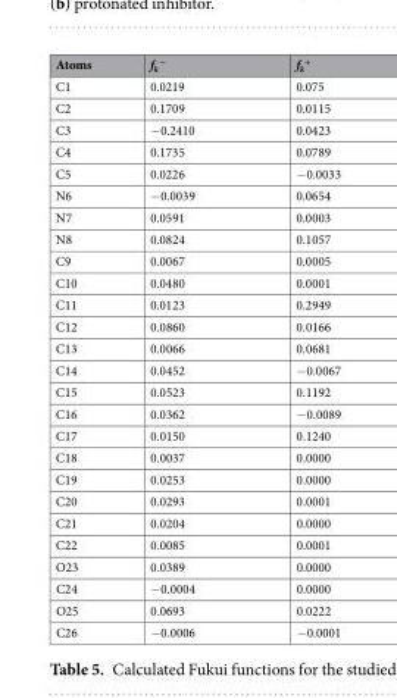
<table><thead><tr><td>Atoms</td><td>f<sub>k</sub> <sup>−</sup></td><td>f<sub>k</sub> <sup>+</sup></td></tr></thead><tbody><tr><td>C1</td><td>0.0219</td><td>0.075</td></tr><tr><td>C2</td><td>0.1709</td><td>0.0115</td></tr><tr><td>C3</td><td>−0.2410</td><td>0.0423</td></tr><tr><td>C4</td><td>0.1735</td><td>0.0789</td></tr><tr><td>C5</td><td>0.0226</td><td>−0.0033</td></tr><tr><td>N6</td><td>−0.0039</td><td>0.0654</td></tr><tr><td>N7</td><td>0.0591</td><td>0.0003</td></tr><tr><td>N8</td><td>0.0824</td><td>0.1057</td></tr><tr><td>C9</td><td>0.0067</td><td>0.0005</td></tr><tr><td>C10</td><td>0.0480</td><td>0.0001</td></tr><tr><td>C11</td><td>0.0123</td><td>0.2949</td></tr><tr><td>C12</td><td>0.0860</td><td>0.0166</td></tr><tr><td>C13</td><td>0.0066</td><td>0.0681</td></tr><tr><td>C14</td><td>0.0452</td><td>−0.0067</td></tr><tr><td>C15</td><td>0.0523</td><td>0.1192</td></tr><tr><td>C16</td><td>0.0362</td><td>−0.0089</td></tr><tr><td>C17</td><td>0.0150</td><td>0.1240</td></tr><tr><td>C18</td><td>0.0037</td><td>0.0000</td></tr><tr><td>C19</td><td>0.0253</td><td>0.0000</td></tr><tr><td>C20</td><td>0.0293</td><td>0.0001</td></tr><tr><td>C21</td><td>0.0204</td><td>0.0000</td></tr><tr><td>C22</td><td>0.0085</td><td>0.0001</td></tr><tr><td>O23</td><td>0.0389</td><td>0.0000</td></tr><tr><td>C24</td><td>−0.0004</td><td>0.0000</td></tr><tr><td>O25</td><td>0.0693</td><td>0.0222</td></tr><tr><td>C26</td><td>−0.0006</td><td>−0.0001</td></tr></tbody></table>